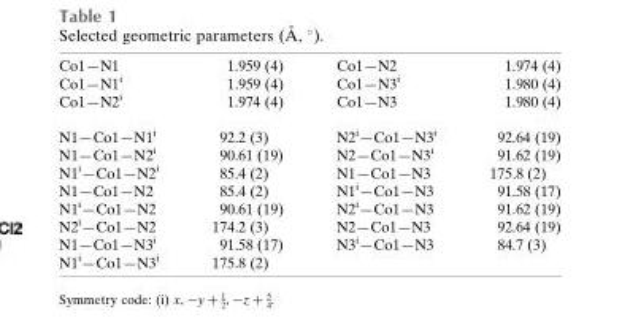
<table><tbody><tr><td>Co1—N1</td><td>1.959 (4)</td><td>Co1—N2</td><td>1.974 (4)</td></tr><tr><td>Co1—N1<sup>i</sup></td><td>1.959 (4)</td><td>Co1—N3<sup>i</sup></td><td>1.980 (4)</td></tr><tr><td>Co1—N2<sup>i</sup></td><td>1.974 (4)</td><td>Co1—N3</td><td>1.980 (4)</td></tr><tr><td>N1—Co1—N1<sup>i</sup></td><td>92.2 (3)</td><td>N2<sup>i</sup>—Co1—N3<sup>i</sup></td><td>92.64 (19)</td></tr><tr><td>N1—Co1—N2<sup>i</sup></td><td>90.61 (19)</td><td>N2—Co1—N3<sup>i</sup></td><td>91.62 (19)</td></tr><tr><td>N1<sup>i</sup>—Co1—N2<sup>i</sup></td><td>85.4 (2)</td><td>N1—Co1—N3</td><td>175.8 (2)</td></tr><tr><td>N1—Co1—N2</td><td>85.4 (2)</td><td>N1<sup>i</sup>—Co1—N3</td><td>91.58 (17)</td></tr><tr><td>N1<sup>i</sup>—Co1—N2</td><td>90.61 (19)</td><td>N2<sup>i</sup>—Co1—N3</td><td>91.62 (19)</td></tr><tr><td>N2<sup>i</sup>—Co1—N2</td><td>174.2 (3)</td><td>N2—Co1—N3</td><td>92.64 (19)</td></tr><tr><td>N1—Co1—N3<sup>i</sup></td><td>91.58 (17)</td><td>N3<sup>i</sup>—Co1—N3</td><td>84.7 (3)</td></tr><tr><td>N1<sup>i</sup>—Co1—N3<sup>i</sup></td><td>175.8 (2)</td><td></td><td></td></tr></tbody></table>